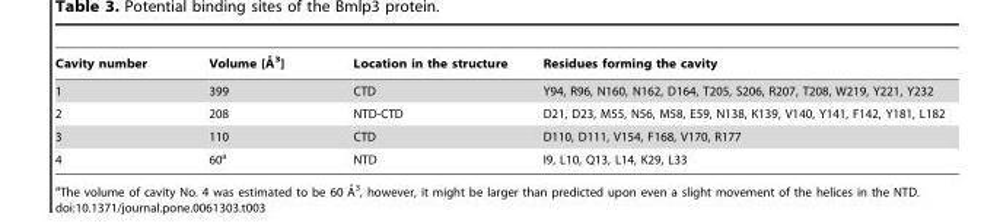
<table><thead><tr><td>Cavity number</td><td>Volume [A˚ 3]</td><td>Location in the structure</td><td>Residues forming the cavity</td></tr></thead><tbody><tr><td>1</td><td>399</td><td>CTD</td><td>Y94, R96, N160, N162, D164, T205, S206, R207, T208, W219, Y221, Y232</td></tr><tr><td>2</td><td>208</td><td>NTD-CTD</td><td>D21, D23, M55, N56, M58, E59, N138, K139, V140, Y141, F142, Y181, L182</td></tr><tr><td>3</td><td>110</td><td>CTD</td><td>D110, D111, V154, F168, V170, R177</td></tr><tr><td>4</td><td>60<sup>a</sup></td><td>NTD</td><td>I9, L10, Q13, L14, K29, L33</td></tr></tbody></table>